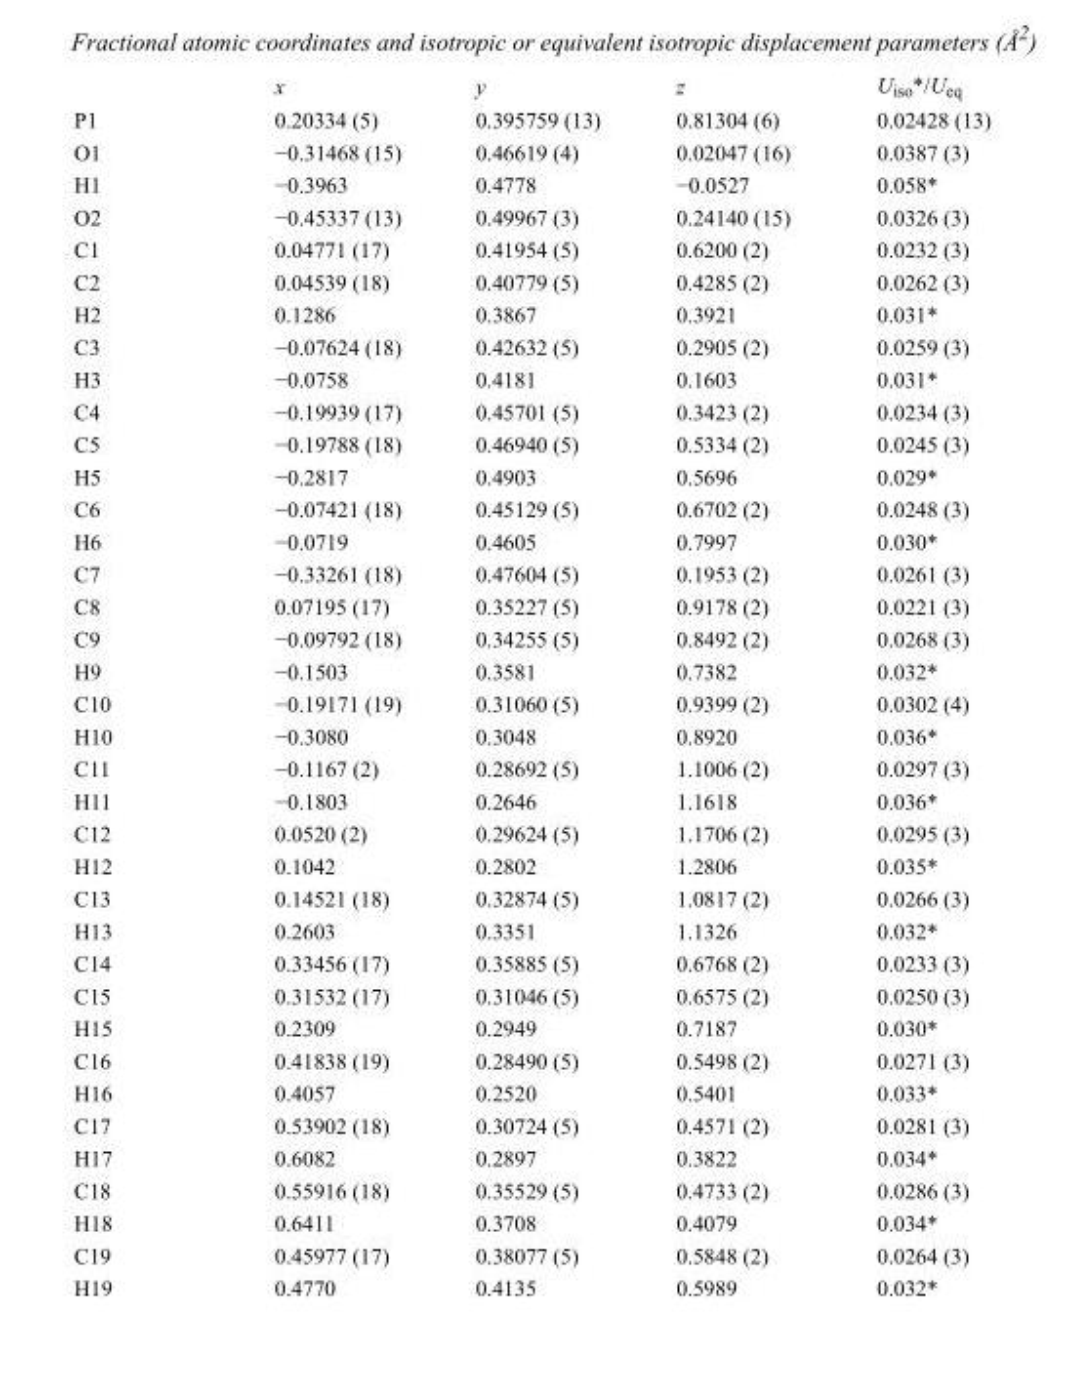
<table><thead><tr><td></td><td>x</td><td>y</td><td>z</td><td>U<sub>iso</sub>*/U<sub>eq</sub></td></tr></thead><tbody><tr><td>P1</td><td>0.20334 (5)</td><td>0.395759 (13)</td><td>0.81304 (6)</td><td>0.02428 (13)</td></tr><tr><td>O1</td><td>−0.31468 (15)</td><td>0.46619 (4)</td><td>0.02047 (16)</td><td>0.0387 (3)</td></tr><tr><td>H1</td><td>−0.3963</td><td>0.4778</td><td>−0.0527</td><td>0.058*</td></tr><tr><td>O2</td><td>−0.45337 (13)</td><td>0.49967 (3)</td><td>0.24140 (15)</td><td>0.0326 (3)</td></tr><tr><td>C1</td><td>0.04771 (17)</td><td>0.41954 (5)</td><td>0.6200 (2)</td><td>0.0232 (3)</td></tr><tr><td>C2</td><td>0.04539 (18)</td><td>0.40779 (5)</td><td>0.4285 (2)</td><td>0.0262 (3)</td></tr><tr><td>H2</td><td>0.1286</td><td>0.3867</td><td>0.3921</td><td>0.031*</td></tr><tr><td>C3</td><td>−0.07624 (18)</td><td>0.42632 (5)</td><td>0.2905 (2)</td><td>0.0259 (3)</td></tr><tr><td>H3</td><td>−0.0758</td><td>0.4181</td><td>0.1603</td><td>0.031*</td></tr><tr><td>C4</td><td>−0.19939 (17)</td><td>0.45701 (5)</td><td>0.3423 (2)</td><td>0.0234 (3)</td></tr><tr><td>C5</td><td>−0.19788 (18)</td><td>0.46940 (5)</td><td>0.5334 (2)</td><td>0.0245 (3)</td></tr><tr><td>H5</td><td>−0.2817</td><td>0.4903</td><td>0.5696</td><td>0.029*</td></tr><tr><td>C6</td><td>−0.07421 (18)</td><td>0.45129 (5)</td><td>0.6702 (2)</td><td>0.0248 (3)</td></tr><tr><td>H6</td><td>−0.0719</td><td>0.4605</td><td>0.7997</td><td>0.030*</td></tr><tr><td>C7</td><td>−0.33261 (18)</td><td>0.47604 (5)</td><td>0.1953 (2)</td><td>0.0261 (3)</td></tr><tr><td>C8</td><td>0.07195 (17)</td><td>0.35227 (5)</td><td>0.9178 (2)</td><td>0.0221 (3)</td></tr><tr><td>C9</td><td>−0.09792 (18)</td><td>0.34255 (5)</td><td>0.8492 (2)</td><td>0.0268 (3)</td></tr><tr><td>H9</td><td>−0.1503</td><td>0.3581</td><td>0.7382</td><td>0.032*</td></tr><tr><td>C10</td><td>−0.19171 (19)</td><td>0.31060 (5)</td><td>0.9399 (2)</td><td>0.0302 (4)</td></tr><tr><td>H10</td><td>−0.3080</td><td>0.3048</td><td>0.8920</td><td>0.036*</td></tr><tr><td>C11</td><td>−0.1167 (2)</td><td>0.28692 (5)</td><td>1.1006 (2)</td><td>0.0297 (3)</td></tr><tr><td>H11</td><td>−0.1803</td><td>0.2646</td><td>1.1618</td><td>0.036*</td></tr><tr><td>C12</td><td>0.0520 (2)</td><td>0.29624 (5)</td><td>1.1706 (2)</td><td>0.0295 (3)</td></tr><tr><td>H12</td><td>0.1042</td><td>0.2802</td><td>1.2806</td><td>0.035*</td></tr><tr><td>C13</td><td>0.14521 (18)</td><td>0.32874 (5)</td><td>1.0817 (2)</td><td>0.0266 (3)</td></tr><tr><td>H13</td><td>0.2603</td><td>0.3351</td><td>1.1326</td><td>0.032*</td></tr><tr><td>C14</td><td>0.33456 (17)</td><td>0.35885 (5)</td><td>0.6768 (2)</td><td>0.0233 (3)</td></tr><tr><td>C15</td><td>0.31532 (17)</td><td>0.31046 (5)</td><td>0.6575 (2)</td><td>0.0250 (3)</td></tr><tr><td>H15</td><td>0.2309</td><td>0.2949</td><td>0.7187</td><td>0.030*</td></tr><tr><td>C16</td><td>0.41838 (19)</td><td>0.28490 (5)</td><td>0.5498 (2)</td><td>0.0271 (3)</td></tr><tr><td>H16</td><td>0.4057</td><td>0.2520</td><td>0.5401</td><td>0.033*</td></tr><tr><td>C17</td><td>0.53902 (18)</td><td>0.30724 (5)</td><td>0.4571 (2)</td><td>0.0281 (3)</td></tr><tr><td>H17</td><td>0.6082</td><td>0.2897</td><td>0.3822</td><td>0.034*</td></tr><tr><td>C18</td><td>0.55916 (18)</td><td>0.35529 (5)</td><td>0.4733 (2)</td><td>0.0286 (3)</td></tr><tr><td>H18</td><td>0.6411</td><td>0.3708</td><td>0.4079</td><td>0.034*</td></tr><tr><td>C19</td><td>0.45977 (17)</td><td>0.38077 (5)</td><td>0.5848 (2)</td><td>0.0264 (3)</td></tr><tr><td>H19</td><td>0.4770</td><td>0.4135</td><td>0.5989</td><td>0.032*</td></tr></tbody></table>